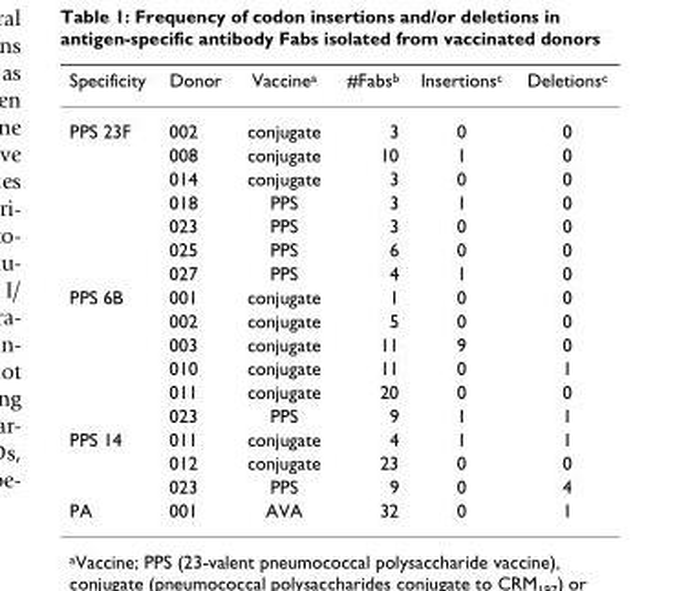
<table><thead><tr><td>Specificity</td><td>Donor</td><td>Vaccine<sup>a</sup></td><td>#Fabs<sup>b</sup></td><td>Insertions<sup>c</sup></td><td>Deletions<sup>c</sup></td></tr></thead><tbody><tr><td rowspan="7">PPS 23F</td><td>002</td><td>conjugate</td><td>3</td><td>0</td><td>0</td></tr><tr><td>008</td><td>conjugate</td><td>10</td><td>1</td><td>0</td></tr><tr><td>014</td><td>conjugate</td><td>3</td><td>0</td><td>0</td></tr><tr><td>018</td><td>PPS</td><td>3</td><td>1</td><td>0</td></tr><tr><td>023</td><td>PPS</td><td>3</td><td>0</td><td>0</td></tr><tr><td>025</td><td>PPS</td><td>6</td><td>0</td><td>0</td></tr><tr><td>027</td><td>PPS</td><td>4</td><td>1</td><td>0</td></tr><tr><td rowspan="6">PPS 6B</td><td>001</td><td>conjugate</td><td>1</td><td>0</td><td>0</td></tr><tr><td>002</td><td>conjugate</td><td>5</td><td>0</td><td>0</td></tr><tr><td>003</td><td>conjugate</td><td>11</td><td>9</td><td>0</td></tr><tr><td>010</td><td>conjugate</td><td>11</td><td>0</td><td>1</td></tr><tr><td>011</td><td>conjugate</td><td>20</td><td>0</td><td>0</td></tr><tr><td>023</td><td>PPS</td><td>9</td><td>1</td><td>1</td></tr><tr><td rowspan="3">PPS 14</td><td>011</td><td>conjugate</td><td>4</td><td>1</td><td>1</td></tr><tr><td>012</td><td>conjugate</td><td>23</td><td>0</td><td>0</td></tr><tr><td>023</td><td>PPS</td><td>9</td><td>0</td><td>4</td></tr><tr><td>PA</td><td>001</td><td>AVA</td><td>32</td><td>0</td><td>1</td></tr></tbody></table>